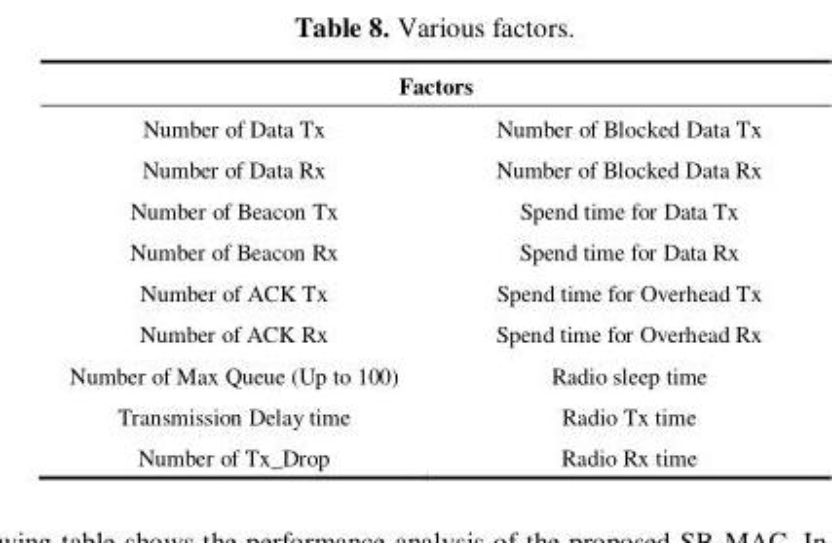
<table><thead><tr><td colspan="2">Factors</td></tr><tr><td>Number of Data Tx</td><td>Number of Blocked Data Tx</td></tr></thead><tbody><tr><td>Number of Data Rx</td><td>Number of Blocked Data Rx</td></tr><tr><td>Number of Beacon Tx</td><td>Spend time for Data Tx</td></tr><tr><td>Number of Beacon Rx</td><td>Spend time for Data Rx</td></tr><tr><td>Number of ACK Tx</td><td>Spend time for Overhead Tx</td></tr><tr><td>Number of ACK Rx</td><td>Spend time for Overhead Rx</td></tr><tr><td>Number of Max Queue (Up to 100)</td><td>Radio sleep time</td></tr><tr><td>Transmission Delay time</td><td>Radio Tx time</td></tr><tr><td>Number of Tx_Drop</td><td>Radio Rx time</td></tr></tbody></table>